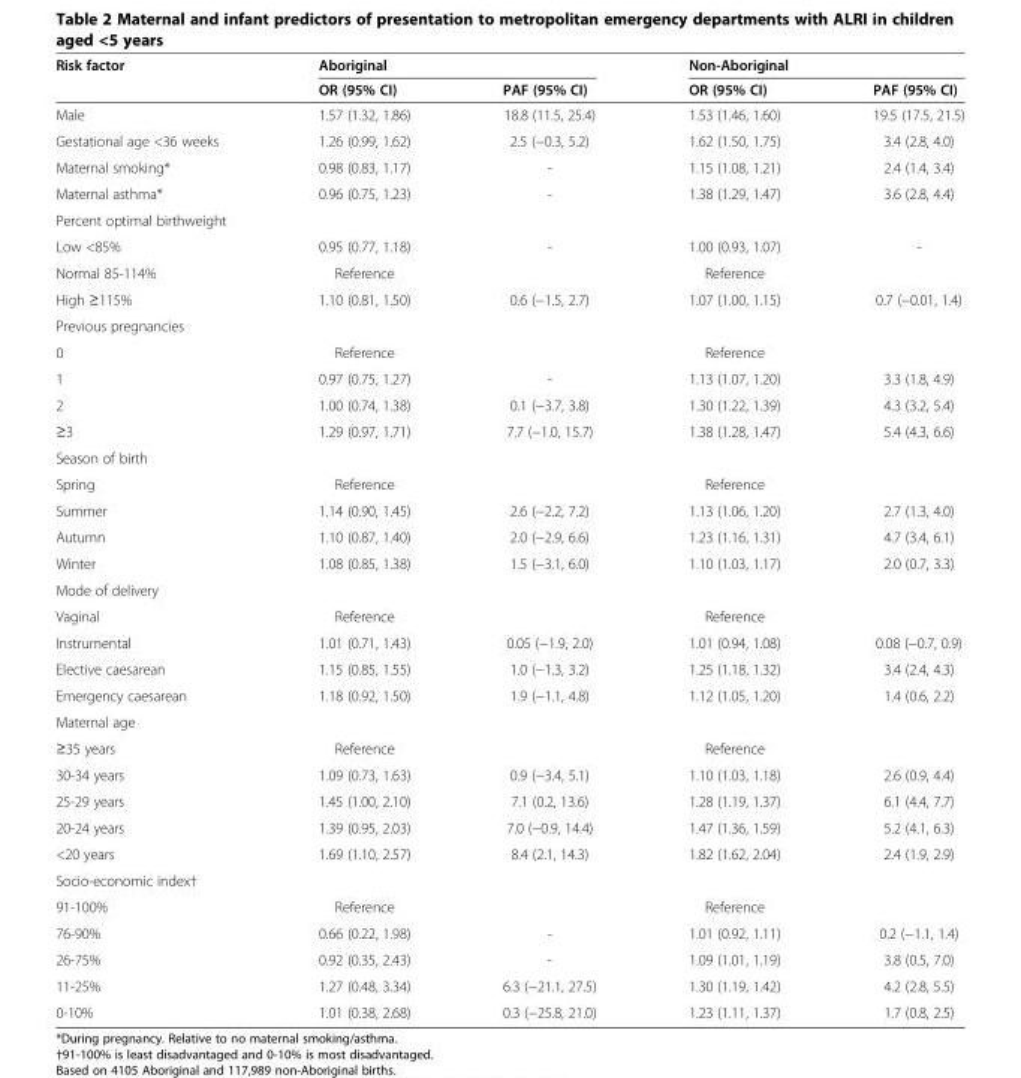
<table><thead><tr><td rowspan="2">Risk factor</td><td rowspan="2">Aboriginal OR (95% CI)</td><td rowspan="2">PAF (95% CI)</td><td rowspan="2">Non-Aboriginal OR (95% CI)</td><td rowspan="2">PAF (95% CI)</td></tr><tr></tr></thead><tbody><tr><td>Male</td><td>1.57 (1.32, 1.86)</td><td>18.8 (11.5, 25.4)</td><td>1.53 (1.46, 1.60)</td><td>19.5 (17.5, 21.5)</td></tr><tr><td>Gestational age &lt;36 weeks</td><td>1.26 (0.99, 1.62)</td><td>2.5 (−0.3, 5.2)</td><td>1.62 (1.50, 1.75)</td><td>3.4 (2.8, 4.0)</td></tr><tr><td>Maternal smoking*</td><td>0.98 (0.83, 1.17)</td><td>-</td><td>1.15 (1.08, 1.21)</td><td>2.4 (1.4, 3.4)</td></tr><tr><td>Maternal asthma*</td><td>0.96 (0.75, 1.23)</td><td>-</td><td>1.38 (1.29, 1.47)</td><td>3.6 (2.8, 4.4)</td></tr><tr><td colspan="5">Percent optimal birthweight</td></tr><tr><td>Low &lt;85%</td><td>0.95 (0.77, 1.18)</td><td>-</td><td>1.00 (0.93, 1.07)</td><td>-</td></tr><tr><td>Normal 85-114%</td><td>Reference</td><td></td><td>Reference</td><td></td></tr><tr><td>High ≥115%</td><td>1.10 (0.81, 1.50)</td><td>0.6 (−1.5, 2.7)</td><td>1.07 (1.00, 1.15)</td><td>0.7 (−0.01, 1.4)</td></tr><tr><td colspan="5">Previous pregnancies</td></tr><tr><td>0</td><td>Reference</td><td></td><td>Reference</td><td></td></tr><tr><td>1</td><td>0.97 (0.75, 1.27)</td><td>-</td><td>1.13 (1.07, 1.20)</td><td>3.3 (1.8, 4.9)</td></tr><tr><td>2</td><td>1.00 (0.74, 1.38)</td><td>0.1 (−3.7, 3.8)</td><td>1.30 (1.22, 1.39)</td><td>4.3 (3.2, 5.4)</td></tr><tr><td>≥3</td><td>1.29 (0.97, 1.71)</td><td>7.7 (−1.0, 15.7)</td><td>1.38 (1.28, 1.47)</td><td>5.4 (4.3, 6.6)</td></tr><tr><td colspan="5">Season of birth</td></tr><tr><td>Spring</td><td>Reference</td><td></td><td>Reference</td><td></td></tr><tr><td>Summer</td><td>1.14 (0.90, 1.45)</td><td>2.6 (−2.2, 7.2)</td><td>1.13 (1.06, 1.20)</td><td>2.7 (1.3, 4.0)</td></tr><tr><td>Autumn</td><td>1.10 (0.87, 1.40)</td><td>2.0 (−2.9, 6.6)</td><td>1.23 (1.16, 1.31)</td><td>4.7 (3.4, 6.1)</td></tr><tr><td>Winter</td><td>1.08 (0.85, 1.38)</td><td>1.5 (−3.1, 6.0)</td><td>1.10 (1.03, 1.17)</td><td>2.0 (0.7, 3.3)</td></tr><tr><td colspan="5">Mode of delivery</td></tr><tr><td>Vaginal</td><td>Reference</td><td></td><td>Reference</td><td></td></tr><tr><td>Instrumental</td><td>1.01 (0.71, 1.43)</td><td>0.05 (−1.9, 2.0)</td><td>1.01 (0.94, 1.08)</td><td>0.08 (−0.7, 0.9)</td></tr><tr><td>Elective caesarean</td><td>1.15 (0.85, 1.55)</td><td>1.0 (−1.3, 3.2)</td><td>1.25 (1.18, 1.32)</td><td>3.4 (2.4, 4.3)</td></tr><tr><td>Emergency caesarean</td><td>1.18 (0.92, 1.50)</td><td>1.9 (−1.1, 4.8)</td><td>1.12 (1.05, 1.20)</td><td>1.4 (0.6, 2.2)</td></tr><tr><td colspan="5">Maternal age</td></tr><tr><td>≥35 years</td><td>Reference</td><td></td><td>Reference</td><td></td></tr><tr><td>30-34 years</td><td>1.09 (0.73, 1.63)</td><td>0.9 (−3.4, 5.1)</td><td>1.10 (1.03, 1.18)</td><td>2.6 (0.9, 4.4)</td></tr><tr><td>25-29 years</td><td>1.45 (1.00, 2.10)</td><td>7.1 (0.2, 13.6)</td><td>1.28 (1.19, 1.37)</td><td>6.1 (4.4, 7.7)</td></tr><tr><td>20-24 years</td><td>1.39 (0.95, 2.03)</td><td>7.0 (−0.9, 14.4)</td><td>1.47 (1.36, 1.59)</td><td>5.2 (4.1, 6.3)</td></tr><tr><td>&lt;20 years</td><td>1.69 (1.10, 2.57)</td><td>8.4 (2.1, 14.3)</td><td>1.82 (1.62, 2.04)</td><td>2.4 (1.9, 2.9)</td></tr><tr><td colspan="5">Socio-economic index†</td></tr><tr><td>91-100%</td><td>Reference</td><td></td><td>Reference</td><td></td></tr><tr><td>76-90%</td><td>0.66 (0.22, 1.98)</td><td>-</td><td>1.01 (0.92, 1.11)</td><td>0.2 (−1.1, 1.4)</td></tr><tr><td>26-75%</td><td>0.92 (0.35, 2.43)</td><td>-</td><td>1.09 (1.01, 1.19)</td><td>3.8 (0.5, 7.0)</td></tr><tr><td>11-25%</td><td>1.27 (0.48, 3.34)</td><td>6.3 (−21.1, 27.5)</td><td>1.30 (1.19, 1.42)</td><td>4.2 (2.8, 5.5)</td></tr><tr><td>0-10%</td><td>1.01 (0.38, 2.68)</td><td>0.3 (−25.8, 21.0)</td><td>1.23 (1.11, 1.37)</td><td>1.7 (0.8, 2.5)</td></tr></tbody></table>